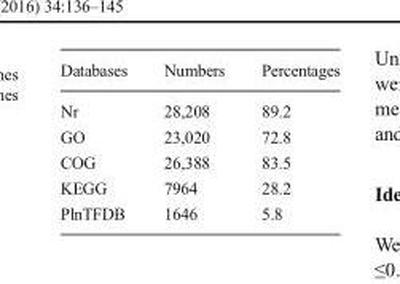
<table><thead><tr><td>Databases</td><td>Numbers</td><td>Percentages</td></tr></thead><tbody><tr><td>Nr</td><td>28,208</td><td>89.2</td></tr><tr><td>GO</td><td>23,020</td><td>72.8</td></tr><tr><td>COG</td><td>26,388</td><td>83.5</td></tr><tr><td>KEGG</td><td>7964</td><td>28.2</td></tr><tr><td>PlnTFDB</td><td>1646</td><td>5.8</td></tr></tbody></table>